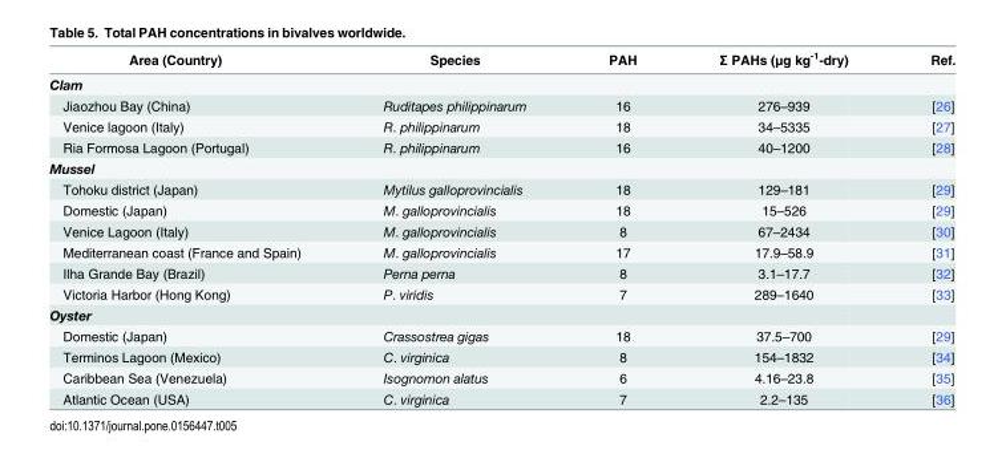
<table><thead><tr><td>Area (Country)</td><td>Species</td><td>PAH</td><td>Σ PAHs (μg kg<sup>-1</sup>-dry)</td><td>Ref.</td></tr></thead><tbody><tr><td colspan="5">Clam</td></tr><tr><td>Jiaozhou Bay (China)</td><td>Ruditapes philippinarum</td><td>16</td><td>276–939</td><td>[26]</td></tr><tr><td>Venice lagoon (Italy)</td><td>R. philippinarum</td><td>18</td><td>34–5335</td><td>[27]</td></tr><tr><td>Ria Formosa Lagoon (Portugal)</td><td>R. philippinarum</td><td>16</td><td>40–1200</td><td>[28]</td></tr><tr><td colspan="5">Mussel</td></tr><tr><td>Tohoku district (Japan)</td><td>Mytilus galloprovincialis</td><td>18</td><td>129–181</td><td>[29]</td></tr><tr><td>Domestic (Japan)</td><td>M. galloprovincialis</td><td>18</td><td>15–526</td><td>[29]</td></tr><tr><td>Venice Lagoon (Italy)</td><td>M. galloprovincialis</td><td>8</td><td>67–2434</td><td>[30]</td></tr><tr><td>Mediterranean coast (France and Spain)</td><td>M. galloprovincialis</td><td>17</td><td>17.9–58.9</td><td>[31]</td></tr><tr><td>Ilha Grande Bay (Brazil)</td><td>Perna perna</td><td>8</td><td>3.1–17.7</td><td>[32]</td></tr><tr><td>Victoria Harbor (Hong Kong)</td><td>P. viridis</td><td>7</td><td>289–1640</td><td>[33]</td></tr><tr><td colspan="5">Oyster</td></tr><tr><td>Domestic (Japan)</td><td>Crassostrea gigas</td><td>18</td><td>37.5–700</td><td>[29]</td></tr><tr><td>Terminos Lagoon (Mexico)</td><td>C. virginica</td><td>8</td><td>154–1832</td><td>[34]</td></tr><tr><td>Caribbean Sea (Venezuela)</td><td>Isognomon alatus</td><td>6</td><td>4.16–23.8</td><td>[35]</td></tr><tr><td>Atlantic Ocean (USA)</td><td>C. virginica</td><td>7</td><td>2.2–135</td><td>[36]</td></tr></tbody></table>